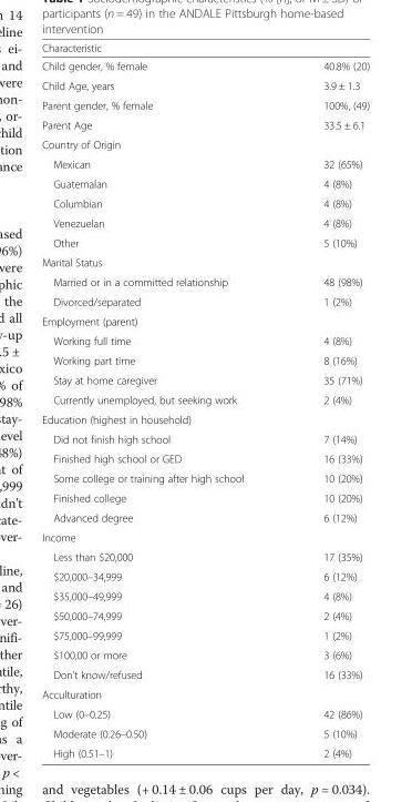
<table><thead><tr><td>Characteristic</td><td></td></tr></thead><tbody><tr><td>Child gender, % female</td><td>40.8% (20)</td></tr><tr><td>Child Age, years</td><td>3.9 ± 1.3</td></tr><tr><td>Parent gender, % female</td><td>100%, (49)</td></tr><tr><td>Parent Age</td><td>33.5 ± 6.1</td></tr><tr><td colspan="2">Country of Origin</td></tr><tr><td>Mexican</td><td>32 (65%)</td></tr><tr><td>Guatemalan</td><td>4 (8%)</td></tr><tr><td>Columbian</td><td>4 (8%)</td></tr><tr><td>Venezuelan</td><td>4 (8%)</td></tr><tr><td>Other</td><td>5 (10%)</td></tr><tr><td colspan="2">Marital Status</td></tr><tr><td>Married or in a committed relationship</td><td>48 (98%)</td></tr><tr><td>Divorced/separated</td><td>1 (2%)</td></tr><tr><td colspan="2">Employment (parent)</td></tr><tr><td>Working full time</td><td>4 (8%)</td></tr><tr><td>Working part time</td><td>8 (16%)</td></tr><tr><td>Stay at home caregiver</td><td>35 (71%)</td></tr><tr><td>Currently unemployed, but seeking work</td><td>2 (4%)</td></tr><tr><td colspan="2">Education (highest in household)</td></tr><tr><td>Did not finish high school</td><td>7 (14%)</td></tr><tr><td>Finished high school or GED</td><td>16 (33%)</td></tr><tr><td>Some college or training after high school</td><td>10 (20%)</td></tr><tr><td>Finished college</td><td>10 (20%)</td></tr><tr><td>Advanced degree</td><td>6 (12%)</td></tr><tr><td colspan="2">Income</td></tr><tr><td>Less than $20,000</td><td>17 (35%)</td></tr><tr><td>$20,000–34,999</td><td>6 (12%)</td></tr><tr><td>$35,000–49,999</td><td>4 (8%)</td></tr><tr><td>$50,000–74,999</td><td>2 (4%)</td></tr><tr><td>$75,000–99,999</td><td>1 (2%)</td></tr><tr><td>$100,00 or more</td><td>3 (6%)</td></tr><tr><td>Don’t know/refused</td><td>16 (33%)</td></tr><tr><td colspan="2">Acculturation</td></tr><tr><td>Low (0–0.25)</td><td>42 (86%)</td></tr><tr><td>Moderate (0.26–0.50)</td><td>5 (10%)</td></tr><tr><td>High (0.51–1)</td><td>2 (4%)</td></tr></tbody></table>